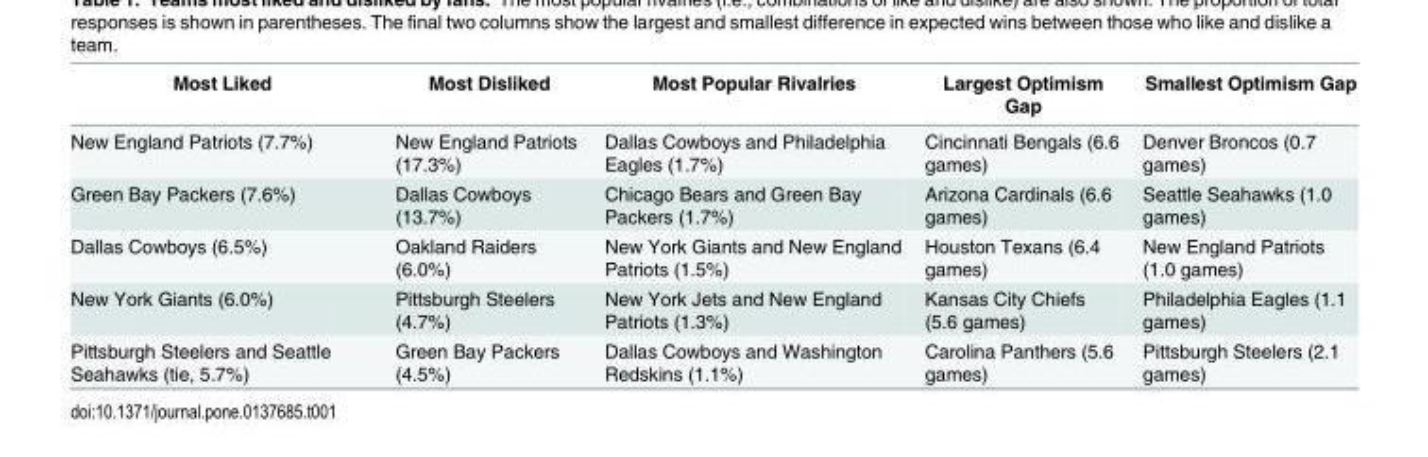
<table><thead><tr><td>Most Liked</td><td>Most Disliked</td><td>Most Popular Rivalries</td><td>Largest Optimism Gap</td><td>Smallest Optimism Gap</td></tr></thead><tbody><tr><td>New England Patriots (7.7%)</td><td>New England Patriots (17.3%)</td><td>Dallas Cowboys and Philadelphia Eagles (1.7%)</td><td>Cincinnati Bengals (6.6 games)</td><td>Denver Broncos (0.7 games)</td></tr><tr><td>Green Bay Packers (7.6%)</td><td>Dallas Cowboys (13.7%)</td><td>Chicago Bears and Green Bay Packers (1.7%)</td><td>Arizona Cardinals (6.6 games)</td><td>Seattle Seahawks (1.0 games)</td></tr><tr><td>Dallas Cowboys (6.5%)</td><td>Oakland Raiders (6.0%)</td><td>New York Giants and New England Patriots (1.5%)</td><td>Houston Texans (6.4 games)</td><td>New England Patriots (1.0 games)</td></tr><tr><td>New York Giants (6.0%)</td><td>Pittsburgh Steelers (4.7%)</td><td>New York Jets and New England Patriots (1.3%)</td><td>Kansas City Chiefs (5.6 games)</td><td>Philadelphia Eagles (1.1 games)</td></tr><tr><td>Pittsburgh Steelers and Seattle Seahawks (tie, 5.7%)</td><td>Green Bay Packers (4.5%)</td><td>Dallas Cowboys and Washington Redskins (1.1%)</td><td>Carolina Panthers (5.6 games)</td><td>Pittsburgh Steelers (2.1 games)</td></tr></tbody></table>